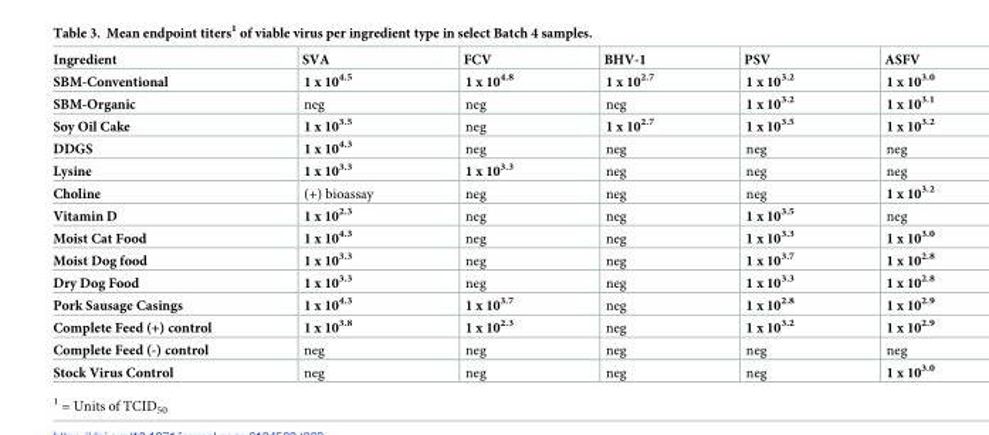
<table><thead><tr><td>Ingredient</td><td>SVA</td><td>FCV</td><td>BHV-1</td><td>PSV</td><td>ASFV</td></tr></thead><tbody><tr><td>SBM-Conventional</td><td>1 x 10<sup>4.5</sup></td><td>1 x 10<sup>4.8</sup></td><td>1 x 10<sup>2.7</sup></td><td>1 x 10<sup>3.2</sup></td><td>1 x 10<sup>3.0</sup></td></tr><tr><td>SBM-Organic</td><td>neg</td><td>neg</td><td>neg</td><td>1 x 10<sup>3.2</sup></td><td>1 x 10<sup>3.1</sup></td></tr><tr><td>Soy Oil Cake</td><td>1 x 10<sup>3.5</sup></td><td>neg</td><td>1 x 10<sup>2.7</sup></td><td>1 x 10<sup>3.5</sup></td><td>1 x 10<sup>3.2</sup></td></tr><tr><td>DDGS</td><td>1 x 10<sup>4.3</sup></td><td>neg</td><td>neg</td><td>neg</td><td>neg</td></tr><tr><td>Lysine</td><td>1 x 10<sup>3.3</sup></td><td>1 x 10<sup>3.3</sup></td><td>neg</td><td>neg</td><td>neg</td></tr><tr><td>Choline</td><td>(+) bioassay</td><td>neg</td><td>neg</td><td>neg</td><td>1 x 10<sup>3.2</sup></td></tr><tr><td>Vitamin D</td><td>1 x 10<sup>2.3</sup></td><td>neg</td><td>neg</td><td>1 x 10<sup>3.5</sup></td><td>neg</td></tr><tr><td>Moist Cat Food</td><td>1 x 10<sup>4.3</sup></td><td>neg</td><td>neg</td><td>1 x 10<sup>3.3</sup></td><td>1 x 10<sup>3.0</sup></td></tr><tr><td>Moist Dog food</td><td>1 x 10<sup>3.3</sup></td><td>neg</td><td>neg</td><td>1 x 10<sup>3.7</sup></td><td>1 x 10<sup>2.8</sup></td></tr><tr><td>Dry Dog Food</td><td>1 x 10<sup>3.3</sup></td><td>neg</td><td>neg</td><td>1 x 10<sup>3.3</sup></td><td>1 x 10<sup>2.8</sup></td></tr><tr><td>Pork Sausage Casings</td><td>1 x 10<sup>4.3</sup></td><td>1 x 10<sup>3.7</sup></td><td>neg</td><td>1 x 10<sup>2.8</sup></td><td>1 x 10<sup>2.9</sup></td></tr><tr><td>Complete Feed (+) control</td><td>1 x 10<sup>3.8</sup></td><td>1 x 10<sup>2.3</sup></td><td>neg</td><td>1 x 10<sup>3.2</sup></td><td>1 x 10<sup>2.9</sup></td></tr><tr><td>Complete Feed (-) control</td><td>neg</td><td>neg</td><td>neg</td><td>neg</td><td>neg</td></tr><tr><td>Stock Virus Control</td><td>neg</td><td>neg</td><td>neg</td><td>neg</td><td>1 x 10<sup>3.0</sup></td></tr></tbody></table>